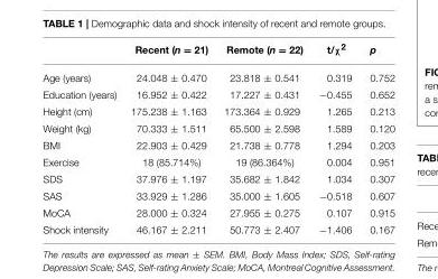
<table><thead><tr><td></td><td>Recent (n = 21)</td><td>Remote (n = 22)</td><td>t/χ<sup>2</sup></td><td>p</td></tr></thead><tbody><tr><td>Age (years)</td><td>24.048 ± 0.470</td><td>23.818 ± 0.541</td><td>0.319</td><td>0.752</td></tr><tr><td>Education (years)</td><td>16.952 ± 0.422</td><td>17.227 ± 0.431</td><td>−0.455</td><td>0.652</td></tr><tr><td>Height (cm)</td><td>175.238 ± 1.163</td><td>173.364 ± 0.929</td><td>1.265</td><td>0.213</td></tr><tr><td>Weight (kg)</td><td>70.333 ± 1.511</td><td>65.500 ± 2.598</td><td>1.589</td><td>0.120</td></tr><tr><td>BMI</td><td>22.903 ± 0.429</td><td>21.738 ± 0.778</td><td>1.294</td><td>0.203</td></tr><tr><td>Exercise</td><td>18 (85.714%)</td><td>19 (86.364%)</td><td>0.004</td><td>0.951</td></tr><tr><td>SDS</td><td>37.976 ± 1.197</td><td>35.682 ± 1.842</td><td>1.034</td><td>0.307</td></tr><tr><td>SAS</td><td>33.929 ± 1.286</td><td>35.000 ± 1.605</td><td>−0.518</td><td>0.607</td></tr><tr><td>MoCA</td><td>28.000 ± 0.324</td><td>27.955 ± 0.275</td><td>0.107</td><td>0.915</td></tr><tr><td>Shock intensity</td><td>46.167 ± 2.211</td><td>50.773 ± 2.407</td><td>−1.406</td><td>0.167</td></tr></tbody></table>